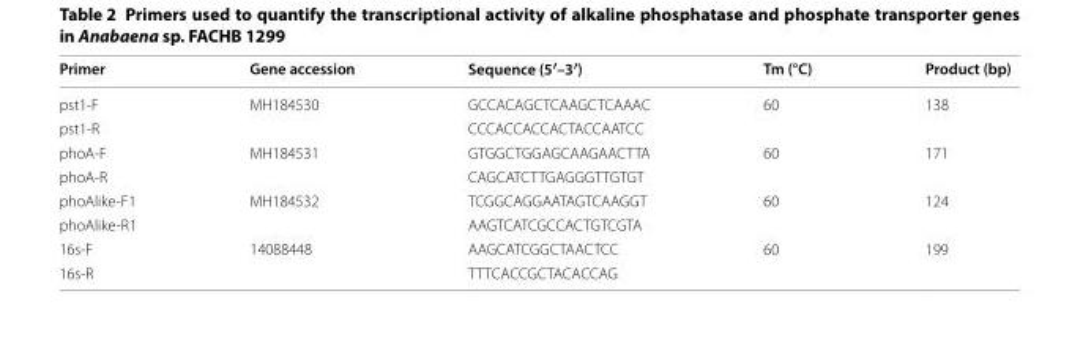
<table><thead><tr><td>Primer</td><td>Gene accession</td><td>Sequence (5′–3′)</td><td>Tm (°C)</td><td>Product (bp)</td></tr></thead><tbody><tr><td>pst1-F</td><td>MH184530</td><td>GCC ACA GCT CAA GCT CAA AC</td><td rowspan="2">60</td><td rowspan="2">138</td></tr><tr><td>pst1-R</td><td></td><td>CCC ACC ACC ACT ACC AAT CC</td></tr><tr><td>phoA-F</td><td>MH184531</td><td>GTG GCT GGA GCA AGA ACT TA</td><td rowspan="2">60</td><td rowspan="2">171</td></tr><tr><td>phoA-R</td><td></td><td>CAG CAT CTT GAG GGT TGT GT</td></tr><tr><td>phoAlike-F1</td><td>MH184532</td><td>TCG GCA GGA ATA GTC AAG GT</td><td rowspan="2">60</td><td rowspan="2">124</td></tr><tr><td>phoAlike-R1</td><td></td><td>AAG TCA TCG CCA CTG TCG TA</td></tr><tr><td>16s-F</td><td>14088448</td><td>AAG CAT CGG CTA ACTCC</td><td rowspan="2">60</td><td rowspan="2">199</td></tr><tr><td>16s-R</td><td></td><td>TTT CAC CGC TAC ACCAG</td></tr></tbody></table>